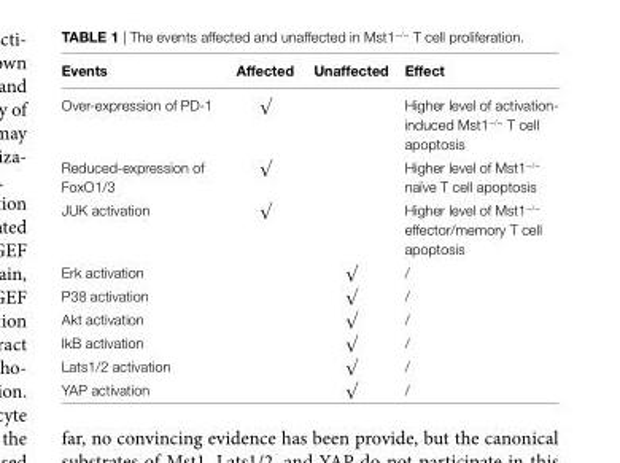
<table><thead><tr><td>events</td><td>Affected</td><td>Unaffected</td><td>effect</td></tr></thead><tbody><tr><td>Over-expression of PD-1</td><td>√</td><td></td><td>Higher level of activation- induced Mst1<sup>−/−</sup> T cell apoptosis</td></tr><tr><td>Reduced-expression of FoxO1/3</td><td>√</td><td></td><td>Higher level of Mst1<sup>−/−</sup> naïve T cell apoptosis</td></tr><tr><td>JUK activation</td><td>√</td><td></td><td>Higher level of Mst1<sup>−/−</sup> effector/memory T cell apoptosis</td></tr><tr><td>Erk activation</td><td></td><td>√</td><td>/</td></tr><tr><td>P38 activation</td><td></td><td>√</td><td>/</td></tr><tr><td>Akt activation</td><td></td><td>√</td><td>/</td></tr><tr><td>IkB activation</td><td></td><td>√</td><td>/</td></tr><tr><td>Lats1/2 activation</td><td></td><td>√</td><td>/</td></tr><tr><td>YAP activation</td><td></td><td>√</td><td>/</td></tr></tbody></table>